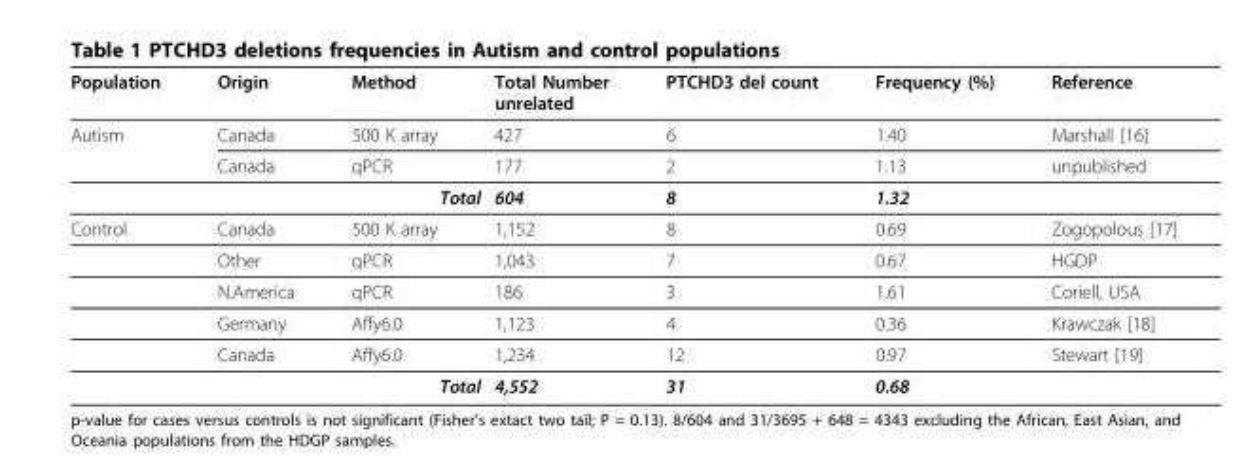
<table><thead><tr><td>Population</td><td>Origin</td><td>Method</td><td>Total Number unrelated</td><td>PTCHD3 del count</td><td>Frequency (%)</td><td>Reference</td></tr></thead><tbody><tr><td rowspan="2">Autism</td><td>Canada</td><td>500 K array</td><td>427</td><td>6</td><td>1.40</td><td>Marshall [16]</td></tr><tr><td>Canada</td><td>qPCR</td><td>177</td><td>2</td><td>1.13</td><td>unpublished</td></tr><tr><td colspan="3">Total</td><td>604</td><td>8</td><td>1.32</td><td></td></tr><tr><td rowspan="5">Control</td><td>Canada</td><td>500 K array</td><td>1,152</td><td>8</td><td>0.69</td><td>Zogopolous [17]</td></tr><tr><td>Other</td><td>qPCR</td><td>1,043</td><td>7</td><td>0.67</td><td>HGDP</td></tr><tr><td>N.America</td><td>qPCR</td><td>186</td><td>3</td><td>1.61</td><td>Coriell, USA</td></tr><tr><td>Germany</td><td>Affy6.0</td><td>1,123</td><td>4</td><td>0.36</td><td>Krawczak [18]</td></tr><tr><td>Canada</td><td>Affy6.0</td><td>1,234</td><td>12</td><td>0.97</td><td>Stewart [19]</td></tr><tr><td colspan="3">Total</td><td>4,552</td><td>31</td><td>0.68</td><td></td></tr></tbody></table>